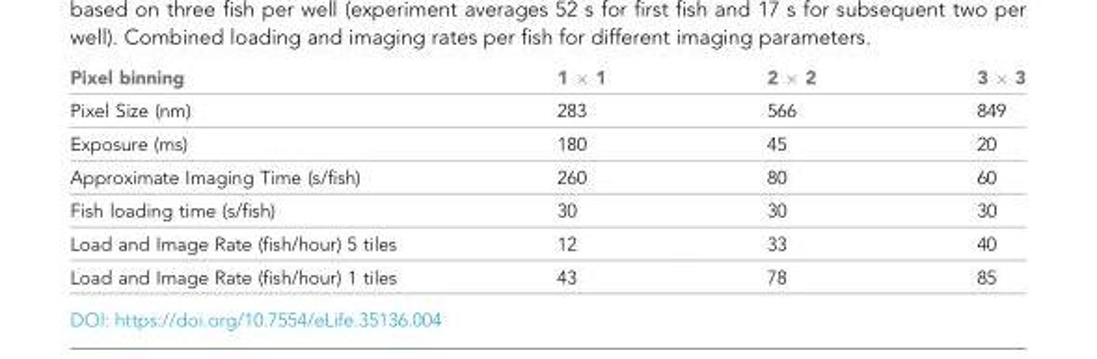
<table><thead><tr><td>Pixel binning</td><td>1 × 1</td><td>2 × 2</td><td>3 × 3</td></tr></thead><tbody><tr><td>Pixel Size (nm)</td><td>283</td><td>566</td><td>849</td></tr><tr><td>Exposure (ms)</td><td>180</td><td>45</td><td>20</td></tr><tr><td>Approximate Imaging Time (s/fish)</td><td>260</td><td>80</td><td>60</td></tr><tr><td>Fish loading time (s/fish)</td><td>30</td><td>30</td><td>30</td></tr><tr><td>Load and Image Rate (fish/hour) 5 tiles</td><td>12</td><td>33</td><td>40</td></tr><tr><td>Load and Image Rate (fish/hour) 1 tiles</td><td>43</td><td>78</td><td>85</td></tr></tbody></table>